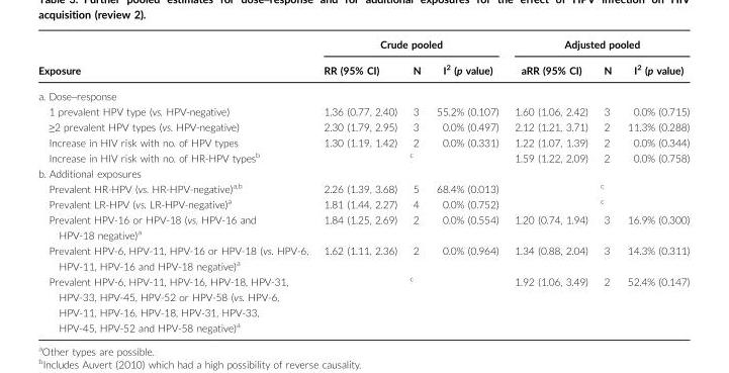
<table><thead><tr><td rowspan="2">Exposure</td><td colspan="3">Crude pooled</td><td colspan="3">Adjusted pooled</td></tr><tr><td>RR (95% CI)</td><td>N</td><td>I<sup>2</sup> (p value)</td><td>aRR (95% CI)</td><td>N</td><td>I<sup>2</sup> (p value)</td></tr></thead><tbody><tr><td colspan="7">a. Dose–response</td></tr><tr><td>1 prevalent HPV type (vs. HPV-negative)</td><td>1.36 (0.77, 2.40)</td><td>3</td><td>55.2% (0.107)</td><td>1.60 (1.06, 2.42)</td><td>3</td><td>0.0% (0.715)</td></tr><tr><td>≥2 prevalent HPV types (vs. HPV-negative)</td><td>2.30 (1.79, 2.95)</td><td>3</td><td>0.0% (0.497)</td><td>2.12 (1.21, 3.71)</td><td>2</td><td>11.3% (0.288)</td></tr><tr><td>Increase in HIV risk with no. of HPV types</td><td>1.30 (1.19, 1.42)</td><td>2</td><td>0.0% (0.331)</td><td>1.22 (1.07, 1.39)</td><td>2</td><td>0.0% (0.344)</td></tr><tr><td>Increase in HIV risk with no. of HR-HPV types<sup>b</sup></td><td></td><td>c</td><td></td><td>1.59 (1.22, 2.09)</td><td>2</td><td>0.0% (0.758)</td></tr><tr><td colspan="7">b. Additional exposures</td></tr><tr><td>Prevalent HR-HPV (vs. HR-HPV-negative)<sup>a,</sup>b</td><td>2.26 (1.39, 3.68)</td><td>5</td><td>68.4% (0.013)</td><td></td><td>c</td><td></td></tr><tr><td>Prevalent LR-HPV (vs. LR-HPV-negative)<sup>a</sup></td><td>1.81 (1.44, 2.27)</td><td>4</td><td>0.0% (0.752)</td><td></td><td>c</td><td></td></tr><tr><td>Prevalent HPV-16 or HPV-18 (vs. HPV-16 and HPV-18 negative)<sup>a</sup></td><td>1.84 (1.25, 2.69)</td><td>2</td><td>0.0% (0.554)</td><td>1.20 (0.74, 1.94)</td><td>3</td><td>16.9% (0.300)</td></tr><tr><td>Prevalent HPV-6, HPV-11, HPV-16 or HPV-18 (vs. HPV-6, HPV-11, HPV-16 and HPV-18 negative)<sup>a</sup></td><td>1.62 (1.11, 2.36)</td><td>2</td><td>0.0% (0.964)</td><td>1.34 (0.88, 2.04)</td><td>3</td><td>14.3% (0.311)</td></tr><tr><td>Prevalent HPV-6, HPV-11, HPV-16, HPV-18, HPV-31, HPV-33, HPV-45, HPV-52 or HPV-58 (vs. HPV-6, HPV-11, HPV-16, HPV-18, HPV-31, HPV-33, HPV-45, HPV-52 and HPV-58 negative)<sup>a</sup></td><td></td><td>c</td><td></td><td>1.92 (1.06, 3.49)</td><td>2</td><td>52.4% (0.147)</td></tr></tbody></table>